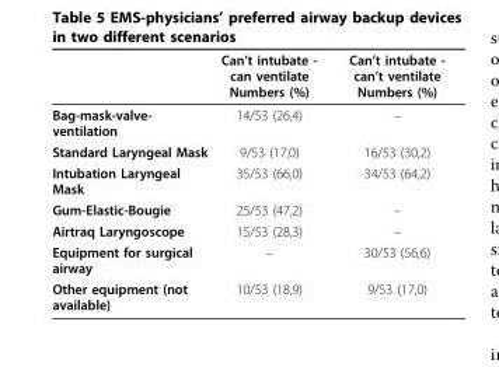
<table><thead><tr><td></td><td>Can’t intubate - can ventilate Numbers (%)</td><td>Can’t intubate - can’t ventilate Numbers (%)</td></tr></thead><tbody><tr><td>Bag-mask-valve- ventilation</td><td>14/53 (26,4)</td><td>–</td></tr><tr><td>Standard Laryngeal Mask</td><td>9/53 (17,0)</td><td>16/53 (30,2)</td></tr><tr><td>Intubation Laryngeal Mask</td><td>35/53 (66,0)</td><td>34/53 (64,2)</td></tr><tr><td>Gum-Elastic-Bougie</td><td>25/53 (47,2)</td><td>–</td></tr><tr><td>Airtraq Laryngoscope</td><td>15/53 (28,3)</td><td>–</td></tr><tr><td>Equipment for surgical airway</td><td>–</td><td>30/53 (56,6)</td></tr><tr><td>Other equipment (not available)</td><td>10/53 (18,9)</td><td>9/53 (17,0)</td></tr></tbody></table>